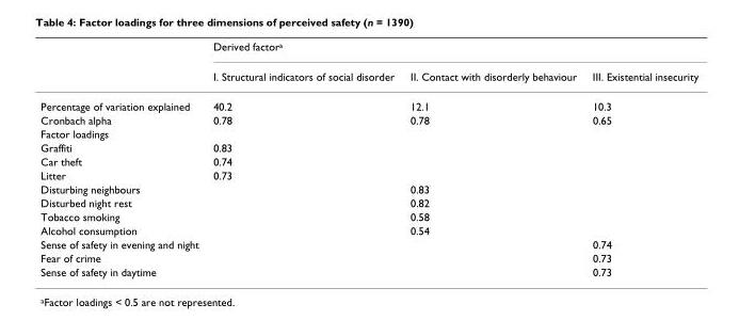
<table><thead><tr><td rowspan="2"></td><td colspan="3">Derived factor<sup>a</sup></td></tr><tr><td>I. Structural indicators of social disorder</td><td>II. Contact with disorderly behaviour</td><td>III. Existential insecurity</td></tr></thead><tbody><tr><td>Percentage of variation explained</td><td>40.2</td><td>12.1</td><td>10.3</td></tr><tr><td>Cronbach alpha</td><td>0.78</td><td>0.78</td><td>0.65</td></tr><tr><td colspan="4">Factor loadings</td></tr><tr><td>Graffiti</td><td>0.83</td><td></td><td></td></tr><tr><td>Car theft</td><td>0.74</td><td></td><td></td></tr><tr><td>Litter</td><td>0.73</td><td></td><td></td></tr><tr><td>Disturbing neighbours</td><td></td><td>0.83</td><td></td></tr><tr><td>Disturbed night rest</td><td></td><td>0.82</td><td></td></tr><tr><td>Tobacco smoking</td><td></td><td>0.58</td><td></td></tr><tr><td>Alcohol consumption</td><td></td><td>0.54</td><td></td></tr><tr><td>Sense of safety in evening and night</td><td></td><td></td><td>0.74</td></tr><tr><td>Fear of crime</td><td></td><td></td><td>0.73</td></tr><tr><td>Sense of safety in daytime</td><td></td><td></td><td>0.73</td></tr></tbody></table>